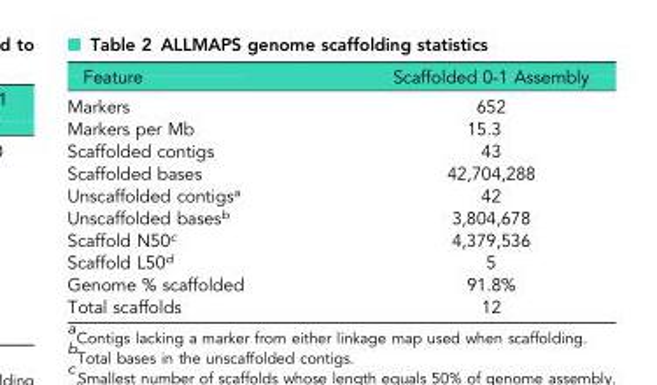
<table><thead><tr><td>Feature</td><td>Scaffolded 0-1 Assembly</td></tr></thead><tbody><tr><td>Markers</td><td>652</td></tr><tr><td>Markers per Mb</td><td>15.3</td></tr><tr><td>Scaffolded contigs</td><td>43</td></tr><tr><td>Scaffolded bases</td><td>42,704,288</td></tr><tr><td>Unscaffolded contigs<sup>a</sup></td><td>42</td></tr><tr><td>Unscaffolded bases<sup>b</sup></td><td>3,804,678</td></tr><tr><td>Scaffold N50<sup>c</sup></td><td>4,379,536</td></tr><tr><td>Scaffold L50<sup>d</sup></td><td>5</td></tr><tr><td>Genome % scaffolded</td><td>91.8%</td></tr><tr><td>Total scaffolds</td><td>12</td></tr></tbody></table>